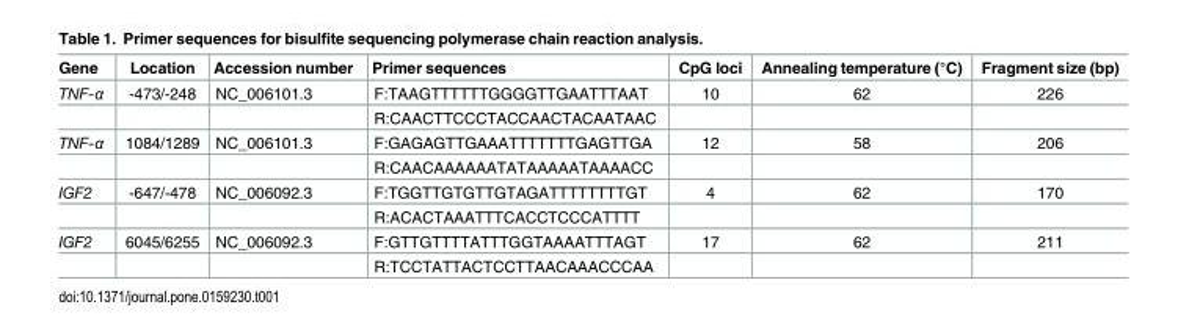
<table><thead><tr><td>Gene</td><td>Location</td><td>Accession number</td><td>Primer sequences</td><td>CpG loci</td><td>Annealing temperature (°C)</td><td>Fragment size (bp)</td></tr></thead><tbody><tr><td rowspan="2">TNF-α</td><td>-473/-248</td><td>NC_006101.3</td><td>F:TAAGTTTTTTGGGGTTGAATTTAAT</td><td>10</td><td>62</td><td>226</td></tr><tr><td></td><td></td><td>R:CAACTTCCCTACCAACTACAATAAC</td><td></td><td></td><td></td></tr><tr><td rowspan="2">TNF-α</td><td>1084/1289</td><td>NC_006101.3</td><td>F:GAGAGTTGAAATTTTTTTGAGTTGA</td><td>12</td><td>58</td><td>206</td></tr><tr><td></td><td></td><td>R:CAACAAAAAATATAAAAATAAAACC</td><td></td><td></td><td></td></tr><tr><td rowspan="2">IGF2</td><td>-647/-478</td><td>NC_006092.3</td><td>F:TGGTTGTGTTGTAGATTTTTTTTGT</td><td>4</td><td>62</td><td>170</td></tr><tr><td></td><td></td><td>R:ACACTAAATTTCACCTCCCATTTT</td><td></td><td></td><td></td></tr><tr><td rowspan="2">IGF2</td><td>6045/6255</td><td>NC_006092.3</td><td>F:GTTGTTTTATTTGGTAAAATTTAGT</td><td>17</td><td>62</td><td>211</td></tr><tr><td></td><td></td><td>R:TCCTATTACTCCTTAACAAACCCAA</td><td></td><td></td><td></td></tr></tbody></table>